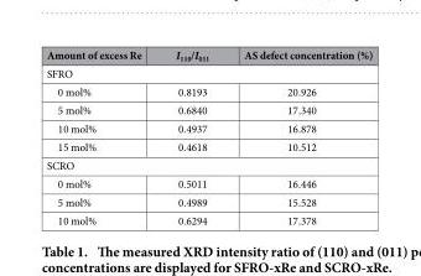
<table><thead><tr><td>Amount of excess Re</td><td>I<sub>110</sub>/I<sub>011</sub></td><td>AS defect concentration (%)</td></tr></thead><tbody><tr><td colspan="3">SFRO</td></tr><tr><td>0 mol%</td><td>0.8193</td><td>20.926</td></tr><tr><td>5 mol%</td><td>0.6840</td><td>17.340</td></tr><tr><td>10 mol%</td><td>0.4937</td><td>16.878</td></tr><tr><td>15 mol%</td><td>0.4618</td><td>10.512</td></tr><tr><td colspan="3">SCRO</td></tr><tr><td>0 mol%</td><td>0.5011</td><td>16.446</td></tr><tr><td>5 mol%</td><td>0.4989</td><td>15.528</td></tr><tr><td>10 mol%</td><td>0.6294</td><td>17.378</td></tr></tbody></table>